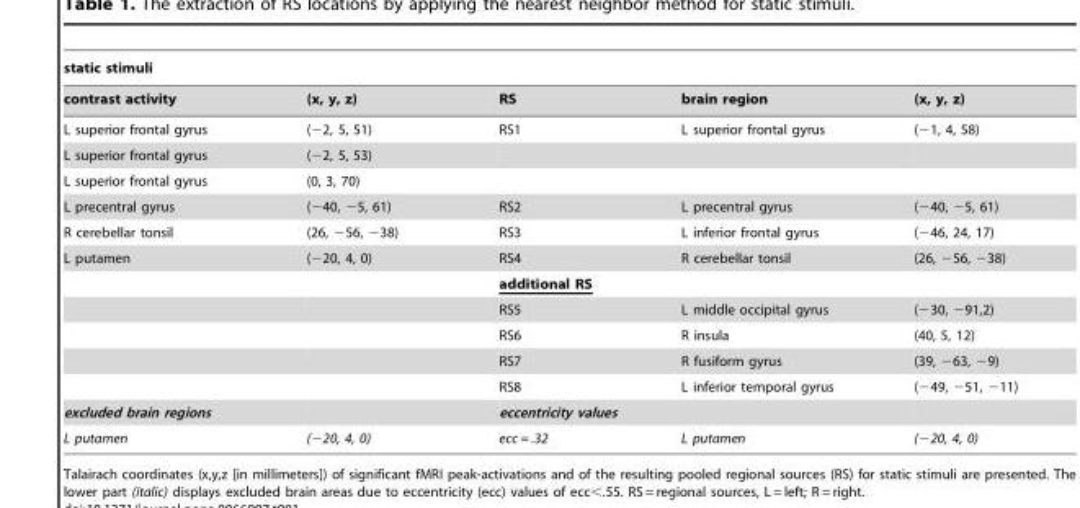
<table><thead><tr><td colspan="5">static stimuli</td></tr><tr><td>contrast activity</td><td>(x, y, z)</td><td>RS</td><td>brain region</td><td>(x, y, z)</td></tr></thead><tbody><tr><td>L superior frontal gyrus</td><td>(−2, 5, 51)</td><td>RS1</td><td>L superior frontal gyrus</td><td>(−1, 4, 58)</td></tr><tr><td>L superior frontal gyrus</td><td>(−2, 5, 53)</td><td></td><td></td><td></td></tr><tr><td>L superior frontal gyrus</td><td>(0, 3, 70)</td><td></td><td></td><td></td></tr><tr><td>L precentral gyrus</td><td>(−40, −5, 61)</td><td>RS2</td><td>L precentral gyrus</td><td>(−40, −5, 61)</td></tr><tr><td>R cerebellar tonsil</td><td>(26, −56, −38)</td><td>RS3</td><td>L inferior frontal gyrus</td><td>(−46, 24, 17)</td></tr><tr><td rowspan="6">L putamen</td><td>(−20, 4, 0)</td><td>RS4</td><td>R cerebellar tonsil</td><td>(26, −56, −38)</td></tr><tr><td></td><td>additional RS</td><td></td><td></td></tr><tr><td></td><td>RS5</td><td>L middle occipital gyrus</td><td>(−30, −91,2)</td></tr><tr><td></td><td>RS6</td><td>R insula</td><td>(40, 5, 12)</td></tr><tr><td></td><td>RS7</td><td>R fusiform gyrus</td><td>(39, −63, −9)</td></tr><tr><td></td><td>RS8</td><td>L inferior temporal gyrus</td><td>(−49, −51, −11)</td></tr><tr><td>excluded brain regions</td><td></td><td>eccentricity values</td><td></td><td></td></tr><tr><td>L putamen</td><td>(−20, 4, 0)</td><td>ecc = .32</td><td>L putamen</td><td>(−20, 4, 0)</td></tr></tbody></table>